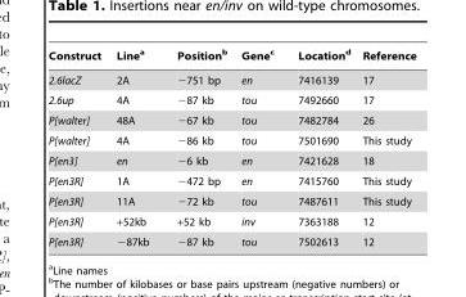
<table><thead><tr><td>Construct</td><td>Line<sup>a</sup></td><td>Position<sup>b</sup></td><td>Gene<sup>c</sup></td><td>Location<sup>d</sup></td><td>Reference</td></tr></thead><tbody><tr><td>2.6lacZ</td><td>2A</td><td>−751 bp</td><td>en</td><td>7416139</td><td>17</td></tr><tr><td>2.6up</td><td>4A</td><td>−87 kb</td><td>tou</td><td>7492660</td><td>17</td></tr><tr><td>P[walter]</td><td>48A</td><td>−67 kb</td><td>tou</td><td>7482784</td><td>26</td></tr><tr><td>P[walter]</td><td>4A</td><td>−86 kb</td><td>tou</td><td>7501690</td><td>This study</td></tr><tr><td>P[en3]</td><td>en</td><td>−6 kb</td><td>en</td><td>7421628</td><td>18</td></tr><tr><td>P[en3R]</td><td>1A</td><td>−472 bp</td><td>en</td><td>7415760</td><td>This study</td></tr><tr><td>P[en3R]</td><td>11A</td><td>−72 kb</td><td>tou</td><td>7487611</td><td>This study</td></tr><tr><td>P[en3R]</td><td>+52kb</td><td>+52 kb</td><td>inv</td><td>7363188</td><td>12</td></tr><tr><td>P[en3R]</td><td>−87kb</td><td>−87 kb</td><td>tou</td><td>7502613</td><td>12</td></tr></tbody></table>